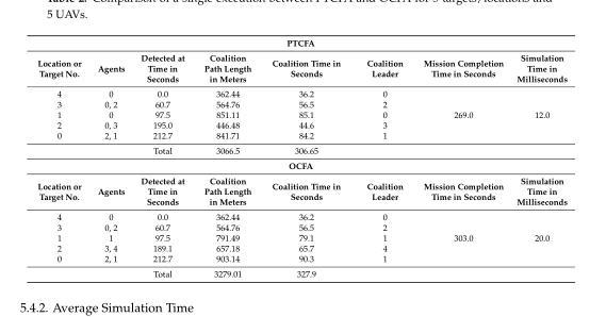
<table><tbody><tr><td colspan="8">PTCFA</td></tr><tr><td>Location or Target No.</td><td>Agents</td><td>Detected at Time in Seconds</td><td>Coalition Path Length in Meters</td><td>Coalition Time in Seconds</td><td>Coalition Leader</td><td>Mission Completion Time in Seconds</td><td>Simulation Time in Milliseconds</td></tr><tr><td>4</td><td>0</td><td>0.0</td><td>362.44</td><td>36.2</td><td>0</td><td></td><td></td></tr><tr><td>3</td><td>0, 2</td><td>60.7</td><td>564.76</td><td>56.5</td><td>2</td><td></td><td></td></tr><tr><td>1</td><td>0</td><td>97.5</td><td>851.11</td><td>85.1</td><td>0</td><td>269.0</td><td>12.0</td></tr><tr><td>2</td><td>0, 3</td><td>195.0</td><td>446.48</td><td>44.6</td><td>3</td><td></td><td></td></tr><tr><td rowspan="2">0</td><td>2, 1</td><td>212.7</td><td>841.71</td><td>84.2</td><td>1</td><td></td><td></td></tr><tr><td></td><td>Total</td><td>3066.5</td><td>306.65</td><td></td><td></td><td></td></tr><tr><td colspan="8">OCFA</td></tr><tr><td>Location or Target No.</td><td>Agents</td><td>Detected at Time in Seconds</td><td>Coalition Path Length in Meters</td><td>Coalition Time in Seconds</td><td>Coalition Leader</td><td>Mission Completion Time in Seconds</td><td>Simulation Time in Milliseconds</td></tr><tr><td>4</td><td>0</td><td>0.0</td><td>362.44</td><td>36.2</td><td>0</td><td></td><td></td></tr><tr><td>3</td><td>0, 2</td><td>60.7</td><td>564.76</td><td>56.5</td><td>2</td><td></td><td></td></tr><tr><td>1</td><td>1</td><td>97.5</td><td>791.49</td><td>79.1</td><td>1</td><td>303.0</td><td>20.0</td></tr><tr><td>2</td><td>3, 4</td><td>189.1</td><td>657.18</td><td>65.7</td><td>4</td><td></td><td></td></tr><tr><td rowspan="2">0</td><td>2, 1</td><td>212.7</td><td>903.14</td><td>90.3</td><td>1</td><td></td><td></td></tr><tr><td></td><td>Total</td><td>3279.01</td><td>327.9</td><td></td><td></td><td></td></tr></tbody></table>